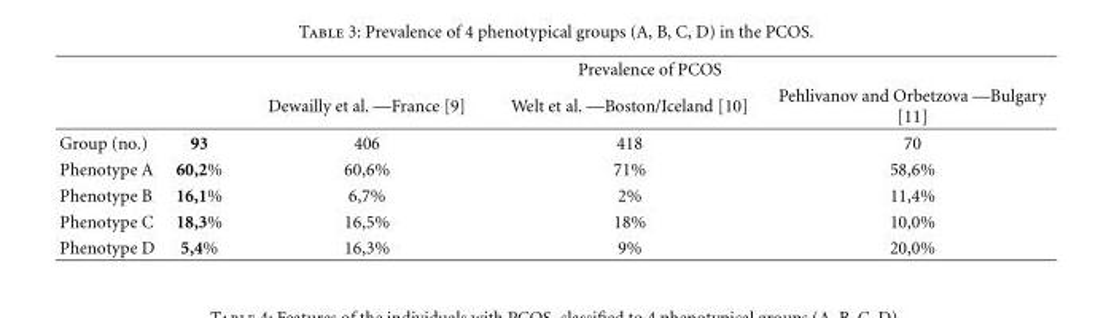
<table><thead><tr><td rowspan="2"></td><td rowspan="2"></td><td colspan="3">Prevalence of PCOS</td></tr><tr><td>Dewailly et al. —France [9]</td><td>Welt et al. —Boston/Iceland [10]</td><td>Pehlivanov and Orbetzova —Bulgary [11]</td></tr></thead><tbody><tr><td>Group (no.)</td><td>93</td><td>406</td><td>418</td><td>70</td></tr><tr><td>Phenotype A</td><td>60,2%</td><td>60,6%</td><td>71%</td><td>58,6%</td></tr><tr><td>Phenotype B</td><td>16,1%</td><td>6,7%</td><td>2%</td><td>11,4%</td></tr><tr><td>Phenotype C</td><td>18,3%</td><td>16,5%</td><td>18%</td><td>10,0%</td></tr><tr><td>Phenotype D</td><td>5,4%</td><td>16,3%</td><td>9%</td><td>20,0%</td></tr></tbody></table>